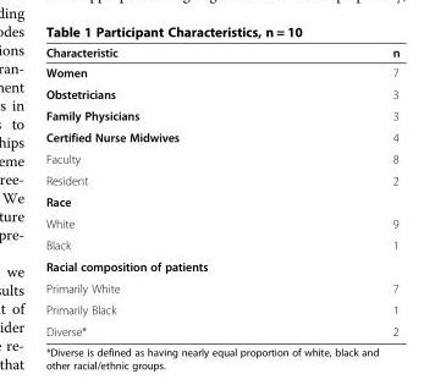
<table><thead><tr><td>Characteristic</td><td>n</td></tr></thead><tbody><tr><td>Women</td><td>7</td></tr><tr><td>Obstetricians</td><td>3</td></tr><tr><td>Family Physicians</td><td>3</td></tr><tr><td>Certified Nurse Midwives</td><td>4</td></tr><tr><td>Faculty</td><td>8</td></tr><tr><td>Resident</td><td>2</td></tr><tr><td colspan="2">Race</td></tr><tr><td>White</td><td>9</td></tr><tr><td>Black</td><td>1</td></tr><tr><td colspan="2">Racial composition of patients</td></tr><tr><td>Primarily White</td><td>7</td></tr><tr><td>Primarily Black</td><td>1</td></tr><tr><td>Diverse*</td><td>2</td></tr></tbody></table>